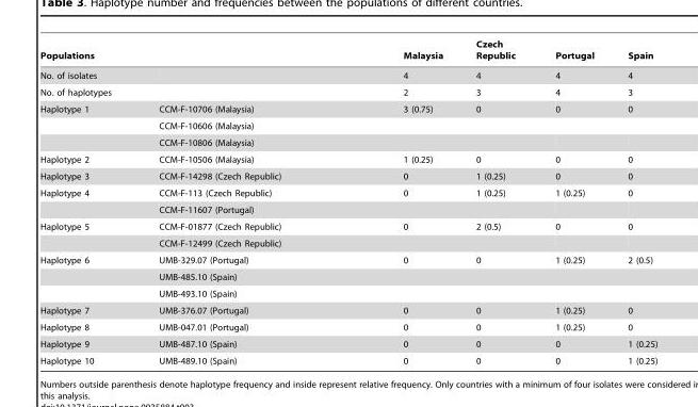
<table><thead><tr><td>Populations</td><td></td><td>Malaysia</td><td>Czech Republic</td><td>Portugal</td><td>Spain</td></tr></thead><tbody><tr><td>No. of isolates</td><td></td><td>4</td><td>4</td><td>4</td><td>4</td></tr><tr><td>No. of haplotypes</td><td></td><td>2</td><td>3</td><td>4</td><td>3</td></tr><tr><td rowspan="3">Haplotype 1</td><td>CCM-F-10706 (Malaysia)</td><td>3 (0.75)</td><td>0</td><td>0</td><td>0</td></tr><tr><td>CCM-F-10606 (Malaysia)</td><td></td><td></td><td></td><td></td></tr><tr><td>CCM-F-10806 (Malaysia)</td><td></td><td></td><td></td><td></td></tr><tr><td>Haplotype 2</td><td>CCM-F-10506 (Malaysia)</td><td>1 (0.25)</td><td>0</td><td>0</td><td>0</td></tr><tr><td>Haplotype 3</td><td>CCM-F-14298 (Czech Republic)</td><td>0</td><td>1 (0.25)</td><td>0</td><td>0</td></tr><tr><td rowspan="2">Haplotype 4</td><td>CCM-F-113 (Czech Republic)</td><td>0</td><td>1 (0.25)</td><td>1 (0.25)</td><td>0</td></tr><tr><td>CCM-F-11607 (Portugal)</td><td></td><td></td><td></td><td></td></tr><tr><td rowspan="2">Haplotype 5</td><td>CCM-F-01877 (Czech Republic)</td><td>0</td><td>2 (0.5)</td><td>0</td><td>0</td></tr><tr><td>CCM-F-12499 (Czech Republic)</td><td></td><td></td><td></td><td></td></tr><tr><td rowspan="3">Haplotype 6</td><td>UMB-329.07 (Portugal)</td><td>0</td><td>0</td><td>1 (0.25)</td><td>2 (0.5)</td></tr><tr><td colspan="5">UMB-485.10 (Spain)</td></tr><tr><td colspan="5">UMB-493.10 (Spain)</td></tr><tr><td>Haplotype 7</td><td>UMB-376.07 (Portugal)</td><td>0</td><td>0</td><td>1 (0.25)</td><td>0</td></tr><tr><td>Haplotype 8</td><td>UMB-047.01 (Portugal)</td><td>0</td><td>0</td><td>1 (0.25)</td><td>0</td></tr><tr><td>Haplotype 9</td><td>UMB-487.10 (Spain)</td><td>0</td><td>0</td><td>0</td><td>1 (0.25)</td></tr><tr><td>Haplotype 10</td><td>UMB-489.10 (Spain)</td><td>0</td><td>0</td><td>0</td><td>1 (0.25)</td></tr></tbody></table>